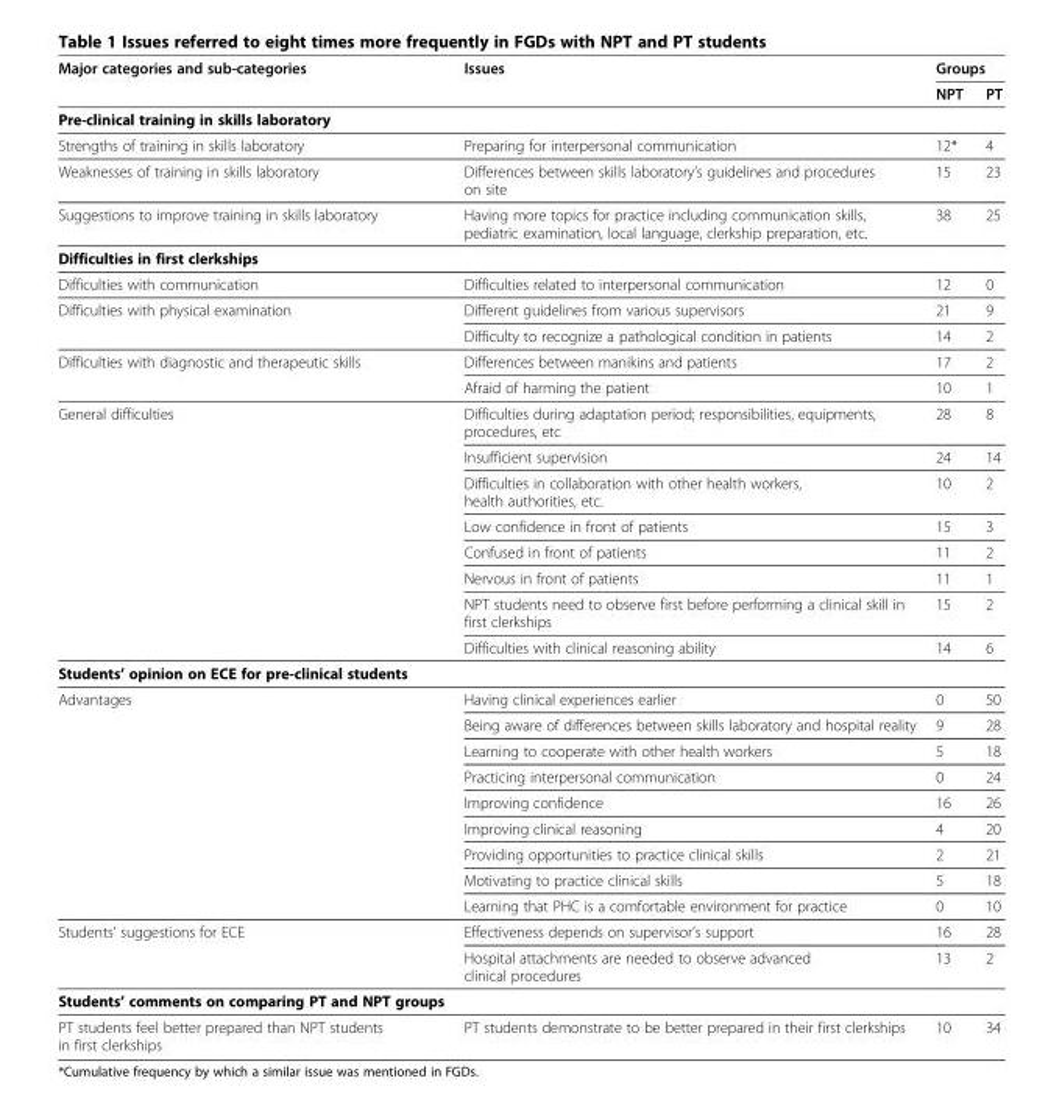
<table><thead><tr><td rowspan="2">Major categories and sub-categories</td><td rowspan="2">Issues</td><td colspan="2">Groups</td></tr><tr><td>NPT</td><td>PT</td></tr></thead><tbody><tr><td colspan="4">Pre-clinical training in skills laboratory</td></tr><tr><td>Strengths of training in skills laboratory</td><td>Preparing for interpersonal communication</td><td>12*</td><td>4</td></tr><tr><td>Weaknesses of training in skills laboratory</td><td>Differences between skills laboratory’s guidelines and procedures on site</td><td>15</td><td>23</td></tr><tr><td>Suggestions to improve training in skills laboratory</td><td>Having more topics for practice including communication skills, pediatric examination, local language, clerkship preparation, etc.</td><td>38</td><td>25</td></tr><tr><td colspan="4">Difficulties in first clerkships</td></tr><tr><td>Difficulties with communication</td><td>Difficulties related to interpersonal communication</td><td>12</td><td>0</td></tr><tr><td rowspan="2">Difficulties with physical examination</td><td>Different guidelines from various supervisors</td><td>21</td><td>9</td></tr><tr><td>Difficulty to recognize a pathological condition in patients</td><td>14</td><td>2</td></tr><tr><td rowspan="2">Difficulties with diagnostic and therapeutic skills</td><td>Differences between manikins and patients</td><td>17</td><td>2</td></tr><tr><td>Afraid of harming the patient</td><td>10</td><td>1</td></tr><tr><td rowspan="8">General difficulties</td><td>Difficulties during adaptation period; responsibilities, equipments, procedures, etc</td><td>28</td><td>8</td></tr><tr><td>Insufficient supervision</td><td>24</td><td>14</td></tr><tr><td>Difficulties in collaboration with other health workers, health authorities, etc.</td><td>10</td><td>2</td></tr><tr><td>Low confidence in front of patients</td><td>15</td><td>3</td></tr><tr><td>Confused in front of patients</td><td>11</td><td>2</td></tr><tr><td>Nervous in front of patients</td><td>11</td><td>1</td></tr><tr><td>NPT students need to observe first before performing a clinical skill in first clerkships</td><td>15</td><td>2</td></tr><tr><td>Difficulties with clinical reasoning ability</td><td>14</td><td>6</td></tr><tr><td colspan="4">Students’ opinion on ECE for pre-clinical students</td></tr><tr><td rowspan="9">Advantages</td><td>Having clinical experiences earlier</td><td>0</td><td>50</td></tr><tr><td>Being aware of differences between skills laboratory and hospital reality</td><td>9</td><td>28</td></tr><tr><td>Learning to cooperate with other health workers</td><td>5</td><td>18</td></tr><tr><td>Practicing interpersonal communication</td><td>0</td><td>24</td></tr><tr><td>Improving confidence</td><td>16</td><td>26</td></tr><tr><td>Improving clinical reasoning</td><td>4</td><td>20</td></tr><tr><td>Providing opportunities to practice clinical skills</td><td>2</td><td>21</td></tr><tr><td>Motivating to practice clinical skills</td><td>5</td><td>18</td></tr><tr><td>Learning that PHC is a comfortable environment for practice</td><td>0</td><td>10</td></tr><tr><td rowspan="2">Students’ suggestions for ECE</td><td>Effectiveness depends on supervisor’s support</td><td>16</td><td>28</td></tr><tr><td>Hospital attachments are needed to observe advanced clinical procedures</td><td>13</td><td>2</td></tr><tr><td colspan="4">Students’ comments on comparing PT and NPT groups</td></tr><tr><td>PT students feel better prepared than NPT students in first clerkships</td><td>PT students demonstrate to be better prepared in their first clerkships</td><td>10</td><td>34</td></tr></tbody></table>